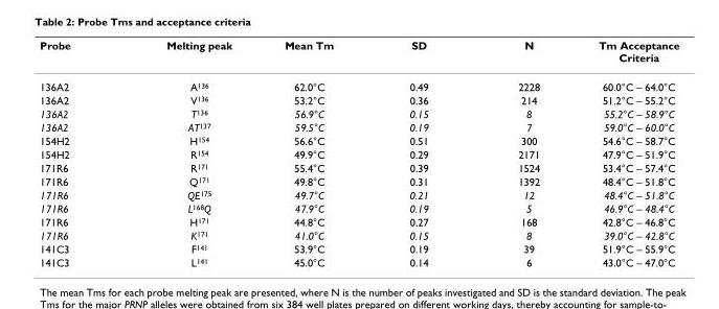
<table><thead><tr><td>Probe</td><td>Melting peak</td><td>Mean Tm</td><td>SD</td><td>N</td><td>Tm Acceptance Criteria</td></tr></thead><tbody><tr><td>136A2</td><td>A<sup>136</sup></td><td>62.0°C</td><td>0.49</td><td>2228</td><td>60.0°C – 64.0°C</td></tr><tr><td>136A2</td><td>V<sup>136</sup></td><td>53.2°C</td><td>0.36</td><td>214</td><td>51.2°C – 55.2°C</td></tr><tr><td>136A2</td><td>T<sup>136</sup></td><td>56.9°C</td><td>0.15</td><td>8</td><td>55.2°C – 58.9°C</td></tr><tr><td>136A2</td><td>AT<sup>137</sup></td><td>59.5°C</td><td>0.19</td><td>7</td><td>59.0°C – 60.0°C</td></tr><tr><td>154H2</td><td>H<sup>154</sup></td><td>56.6°C</td><td>0.51</td><td>300</td><td>54.6°C – 58.7°C</td></tr><tr><td>154H2</td><td>R<sup>154</sup></td><td>49.9°C</td><td>0.29</td><td>2171</td><td>47.9°C – 51.9°C</td></tr><tr><td>171R6</td><td>R<sup>171</sup></td><td>55.4°C</td><td>0.39</td><td>1524</td><td>53.4°C – 57.4°C</td></tr><tr><td>171R6</td><td>Q<sup>171</sup></td><td>49.8°C</td><td>0.31</td><td>1392</td><td>48.4°C – 51.8°C</td></tr><tr><td>171R6</td><td>QE<sup>175</sup></td><td>49.7°C</td><td>0.21</td><td>12</td><td>48.4°C – 51.8°C</td></tr><tr><td>171R6</td><td>L<sup>168</sup>Q</td><td>47.9°C</td><td>0.19</td><td>5</td><td>46.9°C – 48.4°C</td></tr><tr><td>171R6</td><td>H<sup>171</sup></td><td>44.8°C</td><td>0.27</td><td>168</td><td>42.8°C – 46.8°C</td></tr><tr><td>171R6</td><td>K<sup>171</sup></td><td>41.0°C</td><td>0.15</td><td>8</td><td>39.0°C – 42.8°C</td></tr><tr><td>141C3</td><td>F<sup>141</sup></td><td>53.9°C</td><td>0.19</td><td>39</td><td>51.9°C – 55.9°C</td></tr><tr><td>141C3</td><td>L<sup>141</sup></td><td>45.0°C</td><td>0.14</td><td>6</td><td>43.0°C – 47.0°C</td></tr></tbody></table>